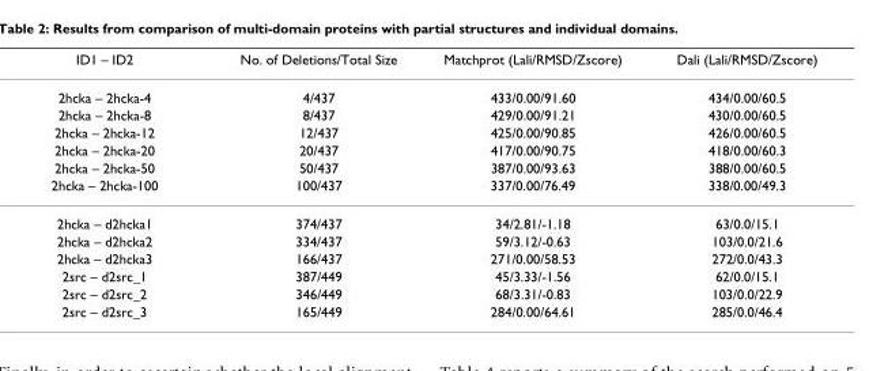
<table><thead><tr><td>ID1 – ID2</td><td>No. of Deletions/Total Size</td><td>Matchprot (Lali/RMSD/Zscore)</td><td>Dali (Lali/RMSD/Zscore)</td></tr></thead><tbody><tr><td>2hcka – 2hcka-4</td><td>4/437</td><td>433/0.00/91.60</td><td>434/0.00/60.5</td></tr><tr><td>2hcka – 2hcka-8</td><td>8/437</td><td>429/0.00/91.21</td><td>430/0.00/60.5</td></tr><tr><td>2hcka – 2hcka-12</td><td>12/437</td><td>425/0.00/90.85</td><td>426/0.00/60.5</td></tr><tr><td>2hcka – 2hcka-20</td><td>20/437</td><td>417/0.00/90.75</td><td>418/0.00/60.3</td></tr><tr><td>2hcka – 2hcka-50</td><td>50/437</td><td>387/0.00/93.63</td><td>388/0.00/60.5</td></tr><tr><td>2hcka – 2hcka-100</td><td>100/437</td><td>337/0.00/76.49</td><td>338/0.00/49.3</td></tr><tr><td>2hcka – d2hcka1</td><td>374/437</td><td>34/2.81/-1.18</td><td>63/0.0/15.1</td></tr><tr><td>2hcka – d2hcka2</td><td>334/437</td><td>59/3.12/-0.63</td><td>103/0.0/21.6</td></tr><tr><td>2hcka – d2hcka3</td><td>166/437</td><td>271/0.00/58.53</td><td>272/0.0/43.3</td></tr><tr><td>2src – d2src_1</td><td>387/449</td><td>45/3.33/-1.56</td><td>62/0.0/15.1</td></tr><tr><td>2src – d2src_2</td><td>346/449</td><td>68/3.31/-0.83</td><td>103/0.0/22.9</td></tr><tr><td>2src – d2src_3</td><td>165/449</td><td>284/0.00/64.61</td><td>285/0.0/46.4</td></tr></tbody></table>